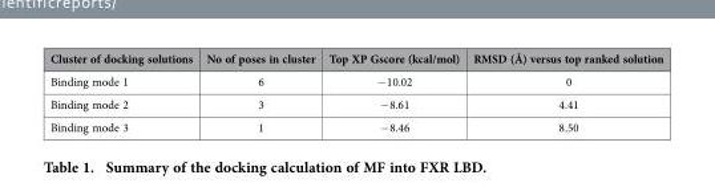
<table><thead><tr><td>Cluster of docking solutions</td><td>No of poses in cluster</td><td>Top XP Gscore (kcal/mol)</td><td>RMSD (Å) versus top ranked solution</td></tr></thead><tbody><tr><td>Binding mode 1</td><td>6</td><td>− 10.02</td><td>0</td></tr><tr><td>Binding mode 2</td><td>3</td><td>− 8.61</td><td>4.41</td></tr><tr><td>Binding mode 3</td><td>1</td><td>− 8.46</td><td>8.50</td></tr></tbody></table>